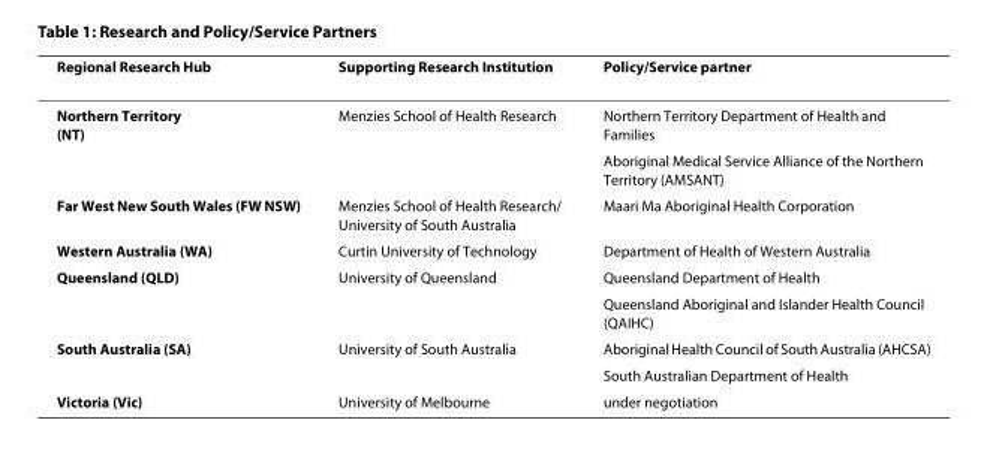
<table><thead><tr><td>Regional Research Hub</td><td>Supporting Research Institution</td><td>Policy/Service partner</td></tr></thead><tbody><tr><td rowspan="2">Northern Territory (NT)</td><td>Menzies School of Health Research</td><td>Northern Territory Department of Health and Families</td></tr><tr><td></td><td>Aboriginal Medical Service Alliance of the Northern Territory (AMSANT)</td></tr><tr><td>Far West New South Wales (FW NSW)</td><td>Menzies School of Health Research/ University of South Australia</td><td>Maari Ma Aboriginal Health Corporation</td></tr><tr><td>Western Australia (WA)</td><td>Curtin University of Technology</td><td>Department of Health of Western Australia</td></tr><tr><td rowspan="2">Queensland (QLD)</td><td>University of Queensland</td><td>Queensland Department of Health</td></tr><tr><td></td><td>Queensland Aboriginal and Islander Health Council (QAIHC)</td></tr><tr><td rowspan="2">South Australia (SA)</td><td>University of South Australia</td><td>Aboriginal Health Council of South Australia (AHCSA)</td></tr><tr><td></td><td>South Australian Department of Health</td></tr><tr><td>Victoria (Vic)</td><td>University of Melbourne</td><td>under negotiation</td></tr></tbody></table>